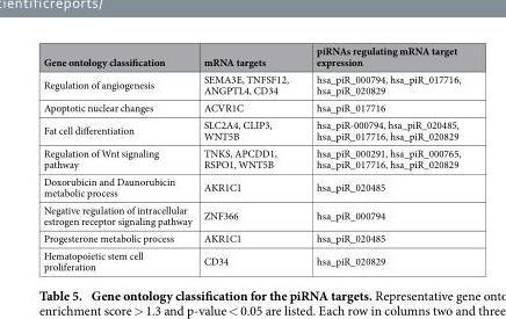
<table><thead><tr><td>Gene ontology classification</td><td>mRNA targets</td><td>piRNAs regulating mRNA target expression</td></tr></thead><tbody><tr><td>Regulation of angiogenesis</td><td>SEMA3E, TNFSF12, ANGPTL4, CD34</td><td>hsa_piR_000794, hsa_piR_017716, hsa_piR_020829</td></tr><tr><td>Apoptotic nuclear changes</td><td>ACVR1C</td><td>hsa_piR_017716</td></tr><tr><td>Fat cell differentiation</td><td>SLC2A4, CLIP3, WNT5B</td><td>hsa_piR-000794, hsa_piR_020485, hsa_piR_017716, hsa_piR_020829</td></tr><tr><td>Regulation of Wnt signaling pathway</td><td>TNKS, APCDD1, RSPO1, WNT5B</td><td>hsa_piR_000291, hsa_piR_000765, hsa_piR_017716, hsa_piR_020829</td></tr><tr><td>Doxorubicin and Daunorubicin metabolic process</td><td>AKR1C1</td><td>hsa_piR_020485</td></tr><tr><td>Negative regulation of intracellular estrogen receptor signaling pathway</td><td>ZNF366</td><td>hsa_piR_000794</td></tr><tr><td>Progesterone metabolic process</td><td>AKR1C1</td><td>hsa_piR_020485</td></tr><tr><td>Hematopoietic stem cell proliferation</td><td>CD34</td><td>hsa_piR_020829</td></tr></tbody></table>